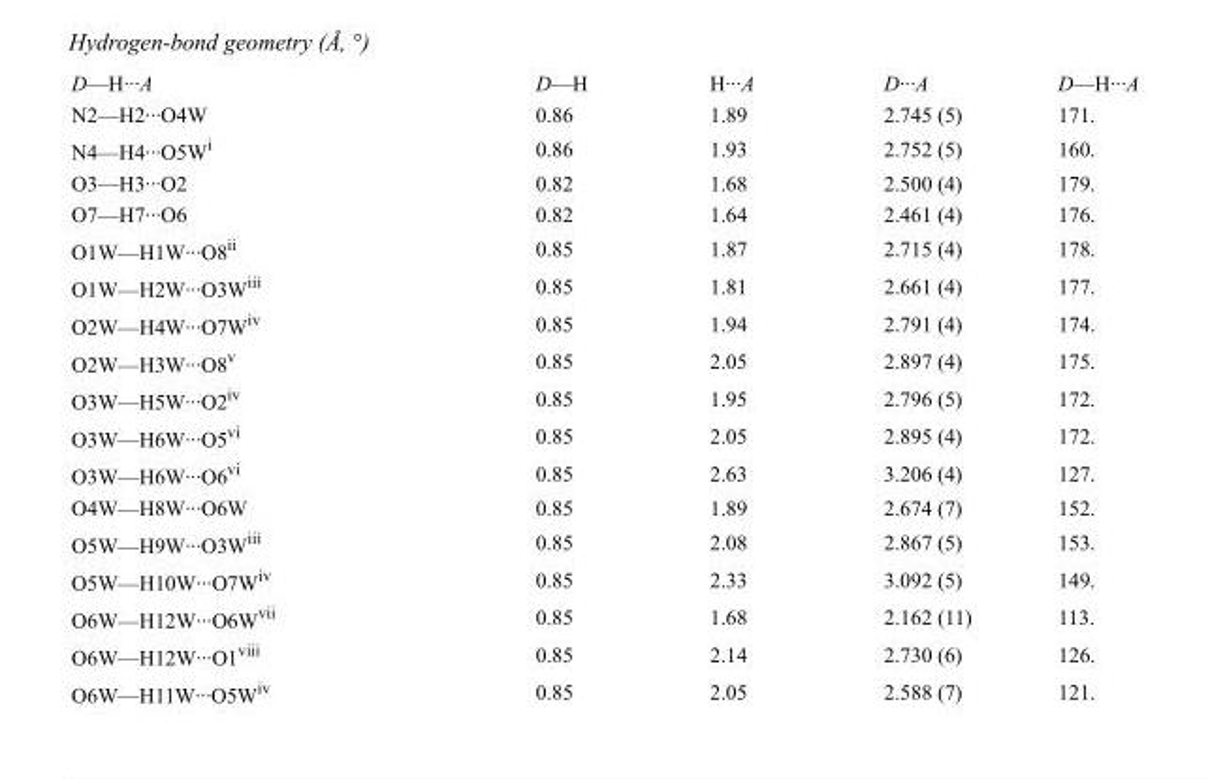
<table><tbody><tr><td>D—H···A</td><td>D—H</td><td>H···A</td><td>D···A</td><td>D—H···A</td></tr><tr><td>N2—H2···O4W</td><td>0.86</td><td>1.89</td><td>2.745 (5)</td><td>171.</td></tr><tr><td>N4—H4···O5W<sup>i</sup></td><td>0.86</td><td>1.93</td><td>2.752 (5)</td><td>160.</td></tr><tr><td>O3—H3···O2</td><td>0.82</td><td>1.68</td><td>2.500 (4)</td><td>179.</td></tr><tr><td>O7—H7···O6</td><td>0.82</td><td>1.64</td><td>2.461 (4)</td><td>176.</td></tr><tr><td>O1W—H1W···O8<sup>ii</sup></td><td>0.85</td><td>1.87</td><td>2.715 (4)</td><td>178.</td></tr><tr><td>O1W—H2W···O3W<sup>iii</sup></td><td>0.85</td><td>1.81</td><td>2.661 (4)</td><td>177.</td></tr><tr><td>O2W—H4W···O7W<sup>iv</sup></td><td>0.85</td><td>1.94</td><td>2.791 (4)</td><td>174.</td></tr><tr><td>O2W—H3W···O8<sup>v</sup></td><td>0.85</td><td>2.05</td><td>2.897 (4)</td><td>175.</td></tr><tr><td>O3W—H5W···O2<sup>iv</sup></td><td>0.85</td><td>1.95</td><td>2.796 (5)</td><td>172.</td></tr><tr><td>O3W—H6W···O5<sup>vi</sup></td><td>0.85</td><td>2.05</td><td>2.895 (4)</td><td>172.</td></tr><tr><td>O3W—H6W···O6<sup>vi</sup></td><td>0.85</td><td>2.63</td><td>3.206 (4)</td><td>127.</td></tr><tr><td>O4W—H8W···O6W</td><td>0.85</td><td>1.89</td><td>2.674 (7)</td><td>152.</td></tr><tr><td>O5W—H9W···O3W<sup>iii</sup></td><td>0.85</td><td>2.08</td><td>2.867 (5)</td><td>153.</td></tr><tr><td>O5W—H10W···O7W<sup>iv</sup></td><td>0.85</td><td>2.33</td><td>3.092 (5)</td><td>149.</td></tr><tr><td>O6W—H12W···O6W<sup>vii</sup></td><td>0.85</td><td>1.68</td><td>2.162 (11)</td><td>113.</td></tr><tr><td>O6W—H12W···O1<sup>viii</sup></td><td>0.85</td><td>2.14</td><td>2.730 (6)</td><td>126.</td></tr><tr><td>O6W—H11W···O5W<sup>iv</sup></td><td>0.85</td><td>2.05</td><td>2.588 (7)</td><td>121.</td></tr></tbody></table>